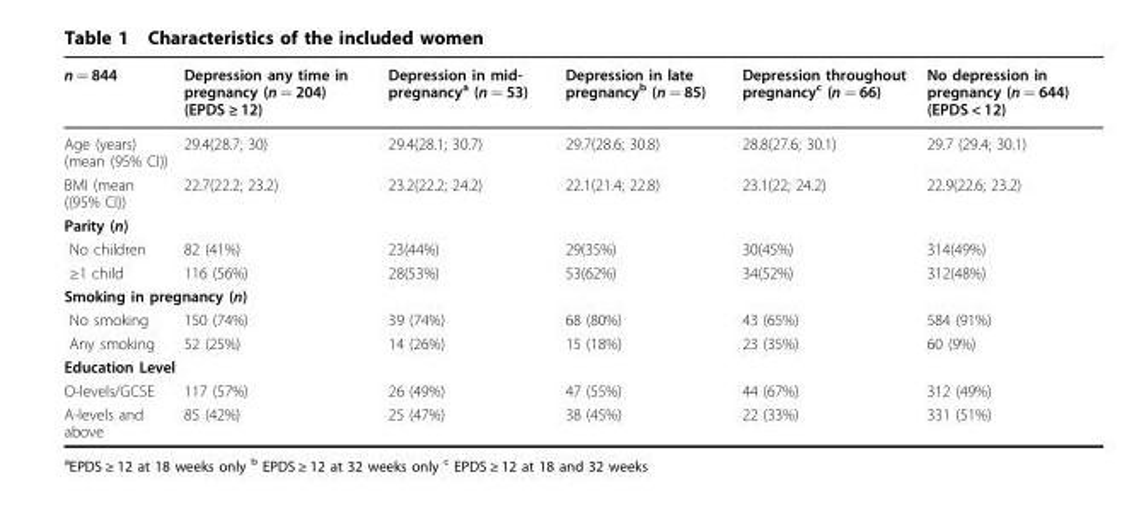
<table><thead><tr><td>n = 844</td><td>Depression any time in pregnancy (n = 204) (EPDS ≥ 12)</td><td>Depression in mid- pregnancy<sup>a</sup> (n = 53)</td><td>Depression in late pregnancy<sup>b</sup> (n = 85)</td><td>Depression throughout pregnancy<sup>c</sup> (n = 66)</td><td>No depression in pregnancy (n = 644) (EPDS &lt; 12)</td></tr></thead><tbody><tr><td>Age (years) (mean (95% CI))</td><td>29.4(28.7; 30)</td><td>29.4(28.1; 30.7)</td><td>29.7(28.6; 30.8)</td><td>28.8(27.6; 30.1)</td><td>29.7 (29.4; 30.1)</td></tr><tr><td>BMI (mean ((95% CI))</td><td>22.7(22.2; 23.2)</td><td>23.2(22.2; 24.2)</td><td>22.1(21.4; 22.8)</td><td>23.1(22; 24.2)</td><td>22.9(22.6; 23.2)</td></tr><tr><td colspan="6">Parity (n)</td></tr><tr><td>No children</td><td>82 (41%)</td><td>23(44%)</td><td>29(35%)</td><td>30(45%)</td><td>314(49%)</td></tr><tr><td>≥1 child</td><td>116 (56%)</td><td>28(53%)</td><td>53(62%)</td><td>34(52%)</td><td>312(48%)</td></tr><tr><td colspan="6">Smoking in pregnancy (n)</td></tr><tr><td>No smoking</td><td>150 (74%)</td><td>39 (74%)</td><td>68 (80%)</td><td>43 (65%)</td><td>584 (91%)</td></tr><tr><td>Any smoking</td><td>52 (25%)</td><td>14 (26%)</td><td>15 (18%)</td><td>23 (35%)</td><td>60 (9%)</td></tr><tr><td colspan="6">Education Level</td></tr><tr><td>O-levels/GCSE</td><td>117 (57%)</td><td>26 (49%)</td><td>47 (55%)</td><td>44 (67%)</td><td>312 (49%)</td></tr><tr><td>A-levels and above</td><td>85 (42%)</td><td>25 (47%)</td><td>38 (45%)</td><td>22 (33%)</td><td>331 (51%)</td></tr></tbody></table>